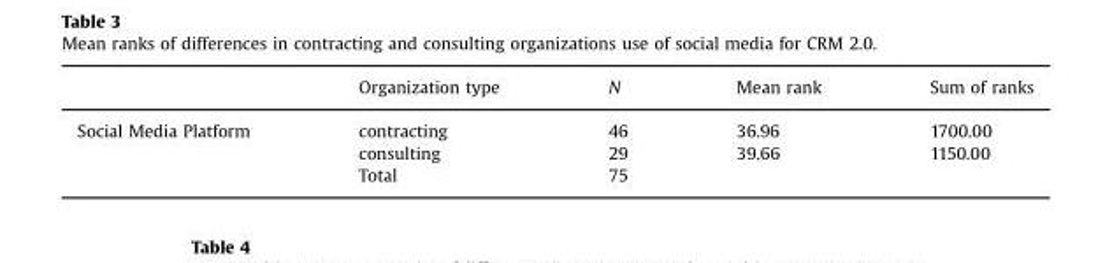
<table><thead><tr><td></td><td>Organization type</td><td>N</td><td>Mean rank</td><td>Sum of ranks</td></tr></thead><tbody><tr><td rowspan="3">Social Media Platform</td><td>contracting</td><td>46</td><td>36.96</td><td>1700.00</td></tr><tr><td>consulting</td><td>29</td><td>39.66</td><td>1150.00</td></tr><tr><td>Total</td><td>75</td><td></td><td></td></tr></tbody></table>